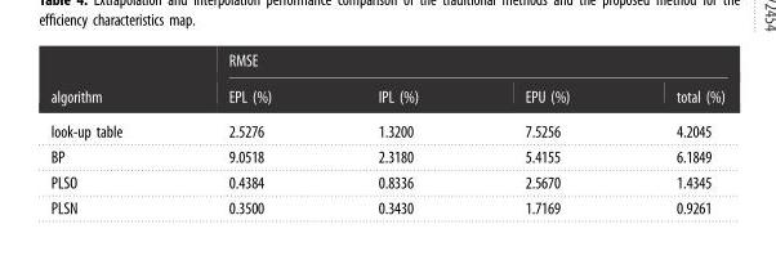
<table><thead><tr><td rowspan="2">algorithm</td><td colspan="4">RMSE</td></tr><tr><td>EPL (%)</td><td>IPL (%)</td><td>EPU (%)</td><td>total (%)</td></tr></thead><tbody><tr><td>look-up table</td><td>2.5276</td><td>1.3200</td><td>7.5256</td><td>4.2045</td></tr><tr><td>BP</td><td>9.0518</td><td>2.3180</td><td>5.4155</td><td>6.1849</td></tr><tr><td>PLSO</td><td>0.4384</td><td>0.8336</td><td>2.5670</td><td>1.4345</td></tr><tr><td>PLSN</td><td>0.3500</td><td>0.3430</td><td>1.7169</td><td>0.9261</td></tr></tbody></table>